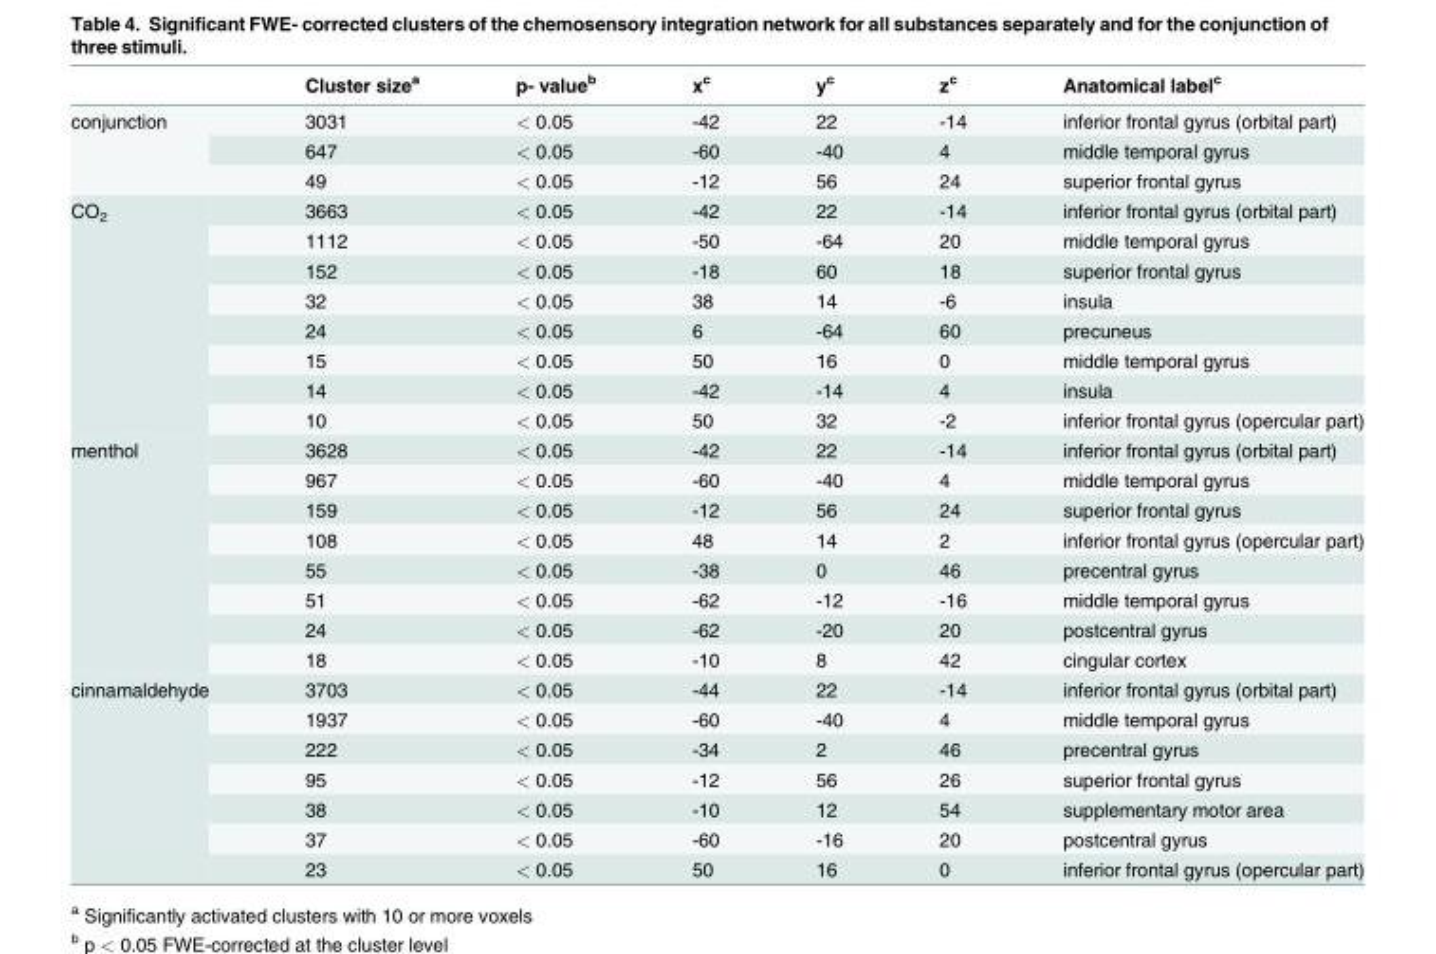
<table><thead><tr><td></td><td>Cluster size<sup>a</sup></td><td>p- value<sup>b</sup></td><td>x<sup>c</sup></td><td>y<sup>c</sup></td><td>z<sup>c</sup></td><td>Anatomical label<sup>c</sup></td></tr></thead><tbody><tr><td rowspan="3">conjunction</td><td>3031</td><td>&lt; 0.05</td><td>-42</td><td>22</td><td>-14</td><td>inferior frontal gyrus (orbital part)</td></tr><tr><td>647</td><td>&lt; 0.05</td><td>-60</td><td>-40</td><td>4</td><td>middle temporal gyrus</td></tr><tr><td>49</td><td>&lt; 0.05</td><td>-12</td><td>56</td><td>24</td><td>superior frontal gyrus</td></tr><tr><td rowspan="8">CO<sub>2</sub></td><td>3663</td><td>&lt; 0.05</td><td>-42</td><td>22</td><td>-14</td><td>inferior frontal gyrus (orbital part)</td></tr><tr><td>1112</td><td>&lt; 0.05</td><td>-50</td><td>-64</td><td>20</td><td>middle temporal gyrus</td></tr><tr><td>152</td><td>&lt; 0.05</td><td>-18</td><td>60</td><td>18</td><td>superior frontal gyrus</td></tr><tr><td>32</td><td>&lt; 0.05</td><td>38</td><td>14</td><td>-6</td><td>insula</td></tr><tr><td>24</td><td>&lt; 0.05</td><td>6</td><td>-64</td><td>60</td><td>precuneus</td></tr><tr><td>15</td><td>&lt; 0.05</td><td>50</td><td>16</td><td>0</td><td>middle temporal gyrus</td></tr><tr><td>14</td><td>&lt; 0.05</td><td>-42</td><td>-14</td><td>4</td><td>insula</td></tr><tr><td>10</td><td>&lt; 0.05</td><td>50</td><td>32</td><td>-2</td><td>inferior frontal gyrus (opercular part)</td></tr><tr><td rowspan="8">menthol</td><td>3628</td><td>&lt; 0.05</td><td>-42</td><td>22</td><td>-14</td><td>inferior frontal gyrus (orbital part)</td></tr><tr><td>967</td><td>&lt; 0.05</td><td>-60</td><td>-40</td><td>4</td><td>middle temporal gyrus</td></tr><tr><td>159</td><td>&lt; 0.05</td><td>-12</td><td>56</td><td>24</td><td>superior frontal gyrus</td></tr><tr><td>108</td><td>&lt; 0.05</td><td>48</td><td>14</td><td>2</td><td>inferior frontal gyrus (opercular part)</td></tr><tr><td>55</td><td>&lt; 0.05</td><td>-38</td><td>0</td><td>46</td><td>precentral gyrus</td></tr><tr><td>51</td><td>&lt; 0.05</td><td>-62</td><td>-12</td><td>-16</td><td>middle temporal gyrus</td></tr><tr><td>24</td><td>&lt; 0.05</td><td>-62</td><td>-20</td><td>20</td><td>postcentral gyrus</td></tr><tr><td>18</td><td>&lt; 0.05</td><td>-10</td><td>8</td><td>42</td><td>cingular cortex</td></tr><tr><td rowspan="7">cinnamaldehyde</td><td>3703</td><td>&lt; 0.05</td><td>-44</td><td>22</td><td>-14</td><td>inferior frontal gyrus (orbital part)</td></tr><tr><td>1937</td><td>&lt; 0.05</td><td>-60</td><td>-40</td><td>4</td><td>middle temporal gyrus</td></tr><tr><td>222</td><td>&lt; 0.05</td><td>-34</td><td>2</td><td>46</td><td>precentral gyrus</td></tr><tr><td>95</td><td>&lt; 0.05</td><td>-12</td><td>56</td><td>26</td><td>superior frontal gyrus</td></tr><tr><td>38</td><td>&lt; 0.05</td><td>-10</td><td>12</td><td>54</td><td>supplementary motor area</td></tr><tr><td>37</td><td>&lt; 0.05</td><td>-60</td><td>-16</td><td>20</td><td>postcentral gyrus</td></tr><tr><td>23</td><td>&lt; 0.05</td><td>50</td><td>16</td><td>0</td><td>inferior frontal gyrus (opercular part)</td></tr></tbody></table>